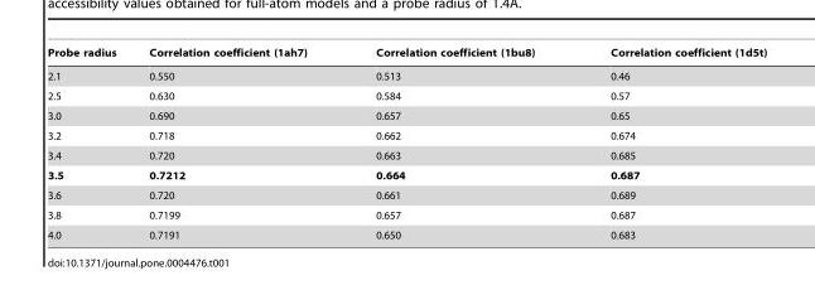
<table><thead><tr><td>Probe radius</td><td>Correlation coefficient (1ah7)</td><td>Correlation coefficient (1bu8)</td><td>Correlation coefficient (1d5t)</td></tr></thead><tbody><tr><td>2.1</td><td>0.550</td><td>0.513</td><td>0.46</td></tr><tr><td>2.5</td><td>0.630</td><td>0.584</td><td>0.57</td></tr><tr><td>3.0</td><td>0.690</td><td>0.657</td><td>0.65</td></tr><tr><td>3.2</td><td>0.718</td><td>0.662</td><td>0.674</td></tr><tr><td>3.4</td><td>0.720</td><td>0.663</td><td>0.685</td></tr><tr><td>3.5</td><td>0.7212</td><td>0.664</td><td>0.687</td></tr><tr><td>3.6</td><td>0.720</td><td>0.661</td><td>0.689</td></tr><tr><td>3.8</td><td>0.7199</td><td>0.657</td><td>0.687</td></tr><tr><td>4.0</td><td>0.7191</td><td>0.650</td><td>0.683</td></tr></tbody></table>